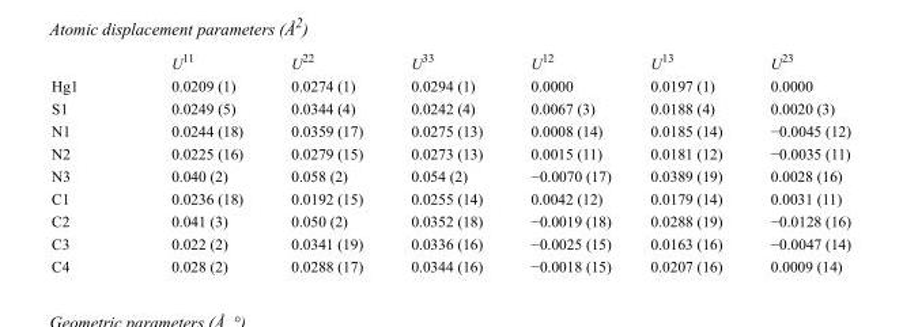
<table><thead><tr><td></td><td>U<sup>11</sup></td><td>U<sup>22</sup></td><td>U<sup>33</sup></td><td>U<sup>12</sup></td><td>U<sup>13</sup></td><td>U<sup>23</sup></td></tr></thead><tbody><tr><td>Hg1</td><td>0.0209 (1)</td><td>0.0274 (1)</td><td>0.0294 (1)</td><td>0.0000</td><td>0.0197 (1)</td><td>0.0000</td></tr><tr><td>S1</td><td>0.0249 (5)</td><td>0.0344 (4)</td><td>0.0242 (4)</td><td>0.0067 (3)</td><td>0.0188 (4)</td><td>0.0020 (3)</td></tr><tr><td>N1</td><td>0.0244 (18)</td><td>0.0359 (17)</td><td>0.0275 (13)</td><td>0.0008 (14)</td><td>0.0185 (14)</td><td>−0.0045 (12)</td></tr><tr><td>N2</td><td>0.0225 (16)</td><td>0.0279 (15)</td><td>0.0273 (13)</td><td>0.0015 (11)</td><td>0.0181 (12)</td><td>−0.0035 (11)</td></tr><tr><td>N3</td><td>0.040 (2)</td><td>0.058 (2)</td><td>0.054 (2)</td><td>−0.0070 (17)</td><td>0.0389 (19)</td><td>0.0028 (16)</td></tr><tr><td>C1</td><td>0.0236 (18)</td><td>0.0192 (15)</td><td>0.0255 (14)</td><td>0.0042 (12)</td><td>0.0179 (14)</td><td>0.0031 (11)</td></tr><tr><td>C2</td><td>0.041 (3)</td><td>0.050 (2)</td><td>0.0352 (18)</td><td>−0.0019 (18)</td><td>0.0288 (19)</td><td>−0.0128 (16)</td></tr><tr><td>C3</td><td>0.022 (2)</td><td>0.0341 (19)</td><td>0.0336 (16)</td><td>−0.0025 (15)</td><td>0.0163 (16)</td><td>−0.0047 (14)</td></tr><tr><td>C4</td><td>0.028 (2)</td><td>0.0288 (17)</td><td>0.0344 (16)</td><td>−0.0018 (15)</td><td>0.0207 (16)</td><td>0.0009 (14)</td></tr></tbody></table>